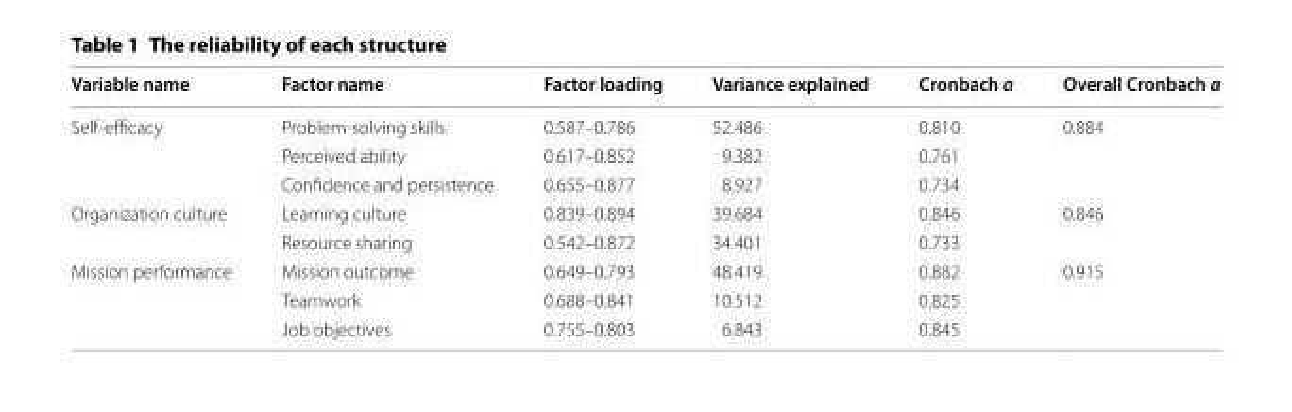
<table><thead><tr><td>Variable name</td><td>Factor name</td><td>Factor loading</td><td>Variance explained</td><td>Cronbach α</td><td>Overall Cronbach α</td></tr></thead><tbody><tr><td rowspan="3">Self‑efficacy</td><td>Problem‑solving skills</td><td>0.587–0.786</td><td>52.486</td><td>0.810</td><td>0.884</td></tr><tr><td>Perceived ability</td><td>0.617–0.852</td><td>9.382</td><td>0.761</td><td></td></tr><tr><td>Confidence and persistence</td><td>0.655–0.877</td><td>8.927</td><td>0.734</td><td></td></tr><tr><td rowspan="2">Organization culture</td><td>Learning culture</td><td>0.839–0.894</td><td>39.684</td><td>0.846</td><td>0.846</td></tr><tr><td>Resource sharing</td><td>0.542–0.872</td><td>34.401</td><td>0.733</td><td></td></tr><tr><td rowspan="3">Mission performance</td><td>Mission outcome</td><td>0.649–0.793</td><td>48.419</td><td>0.882</td><td>0.915</td></tr><tr><td>Teamwork</td><td>0.688–0.841</td><td>10.512</td><td>0.825</td><td></td></tr><tr><td>Job objectives</td><td>0.755–0.803</td><td>6.843</td><td>0.845</td><td></td></tr></tbody></table>